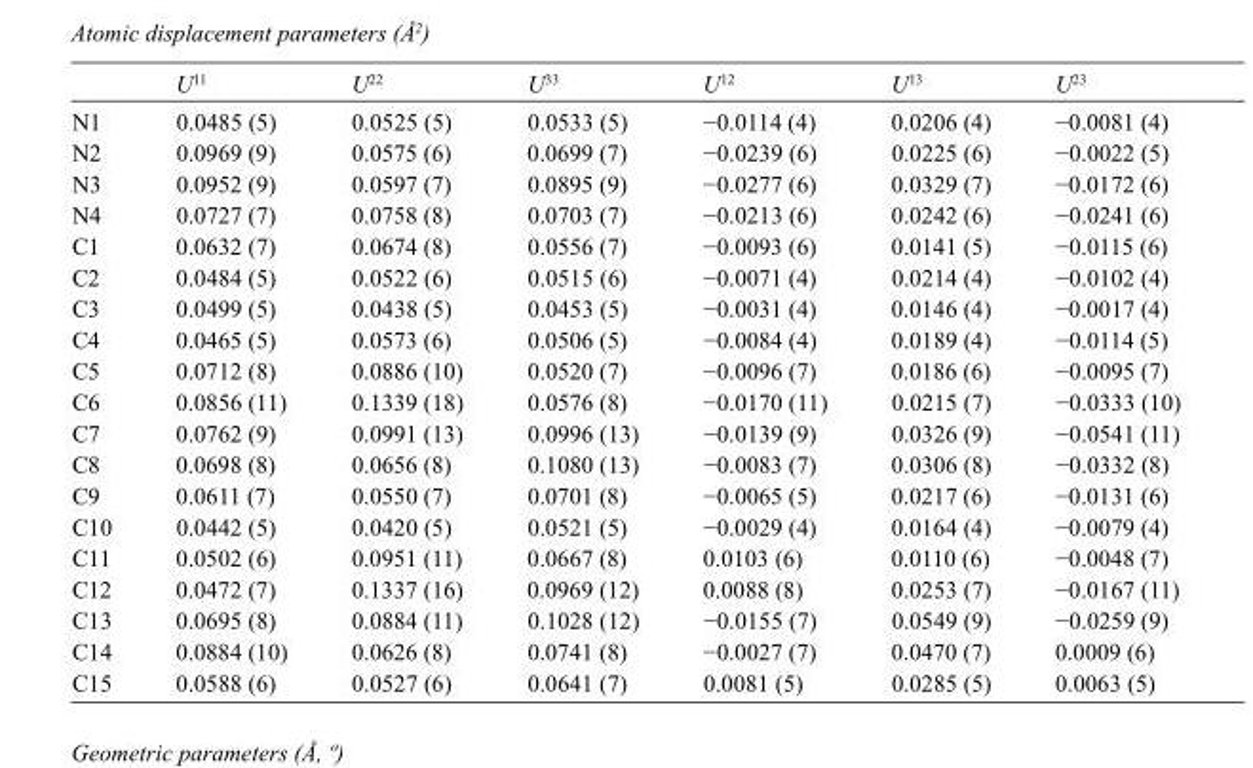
<table><thead><tr><td></td><td>U<sup>11</sup></td><td>U<sup>22</sup></td><td>U<sup>33</sup></td><td>U<sup>12</sup></td><td>U<sup>13</sup></td><td>U<sup>23</sup></td></tr></thead><tbody><tr><td>N1</td><td>0.0485 (5)</td><td>0.0525 (5)</td><td>0.0533 (5)</td><td>−0.0114 (4)</td><td>0.0206 (4)</td><td>−0.0081 (4)</td></tr><tr><td>N2</td><td>0.0969 (9)</td><td>0.0575 (6)</td><td>0.0699 (7)</td><td>−0.0239 (6)</td><td>0.0225 (6)</td><td>−0.0022 (5)</td></tr><tr><td>N3</td><td>0.0952 (9)</td><td>0.0597 (7)</td><td>0.0895 (9)</td><td>−0.0277 (6)</td><td>0.0329 (7)</td><td>−0.0172 (6)</td></tr><tr><td>N4</td><td>0.0727 (7)</td><td>0.0758 (8)</td><td>0.0703 (7)</td><td>−0.0213 (6)</td><td>0.0242 (6)</td><td>−0.0241 (6)</td></tr><tr><td>C1</td><td>0.0632 (7)</td><td>0.0674 (8)</td><td>0.0556 (7)</td><td>−0.0093 (6)</td><td>0.0141 (5)</td><td>−0.0115 (6)</td></tr><tr><td>C2</td><td>0.0484 (5)</td><td>0.0522 (6)</td><td>0.0515 (6)</td><td>−0.0071 (4)</td><td>0.0214 (4)</td><td>−0.0102 (4)</td></tr><tr><td>C3</td><td>0.0499 (5)</td><td>0.0438 (5)</td><td>0.0453 (5)</td><td>−0.0031 (4)</td><td>0.0146 (4)</td><td>−0.0017 (4)</td></tr><tr><td>C4</td><td>0.0465 (5)</td><td>0.0573 (6)</td><td>0.0506 (5)</td><td>−0.0084 (4)</td><td>0.0189 (4)</td><td>−0.0114 (5)</td></tr><tr><td>C5</td><td>0.0712 (8)</td><td>0.0886 (10)</td><td>0.0520 (7)</td><td>−0.0096 (7)</td><td>0.0186 (6)</td><td>−0.0095 (7)</td></tr><tr><td>C6</td><td>0.0856 (11)</td><td>0.1339 (18)</td><td>0.0576 (8)</td><td>−0.0170 (11)</td><td>0.0215 (7)</td><td>−0.0333 (10)</td></tr><tr><td>C7</td><td>0.0762 (9)</td><td>0.0991 (13)</td><td>0.0996 (13)</td><td>−0.0139 (9)</td><td>0.0326 (9)</td><td>−0.0541 (11)</td></tr><tr><td>C8</td><td>0.0698 (8)</td><td>0.0656 (8)</td><td>0.1080 (13)</td><td>−0.0083 (7)</td><td>0.0306 (8)</td><td>−0.0332 (8)</td></tr><tr><td>C9</td><td>0.0611 (7)</td><td>0.0550 (7)</td><td>0.0701 (8)</td><td>−0.0065 (5)</td><td>0.0217 (6)</td><td>−0.0131 (6)</td></tr><tr><td>C10</td><td>0.0442 (5)</td><td>0.0420 (5)</td><td>0.0521 (5)</td><td>−0.0029 (4)</td><td>0.0164 (4)</td><td>−0.0079 (4)</td></tr><tr><td>C11</td><td>0.0502 (6)</td><td>0.0951 (11)</td><td>0.0667 (8)</td><td>0.0103 (6)</td><td>0.0110 (6)</td><td>−0.0048 (7)</td></tr><tr><td>C12</td><td>0.0472 (7)</td><td>0.1337 (16)</td><td>0.0969 (12)</td><td>0.0088 (8)</td><td>0.0253 (7)</td><td>−0.0167 (11)</td></tr><tr><td>C13</td><td>0.0695 (8)</td><td>0.0884 (11)</td><td>0.1028 (12)</td><td>−0.0155 (7)</td><td>0.0549 (9)</td><td>−0.0259 (9)</td></tr><tr><td>C14</td><td>0.0884 (10)</td><td>0.0626 (8)</td><td>0.0741 (8)</td><td>−0.0027 (7)</td><td>0.0470 (7)</td><td>0.0009 (6)</td></tr><tr><td>C15</td><td>0.0588 (6)</td><td>0.0527 (6)</td><td>0.0641 (7)</td><td>0.0081 (5)</td><td>0.0285 (5)</td><td>0.0063 (5)</td></tr></tbody></table>